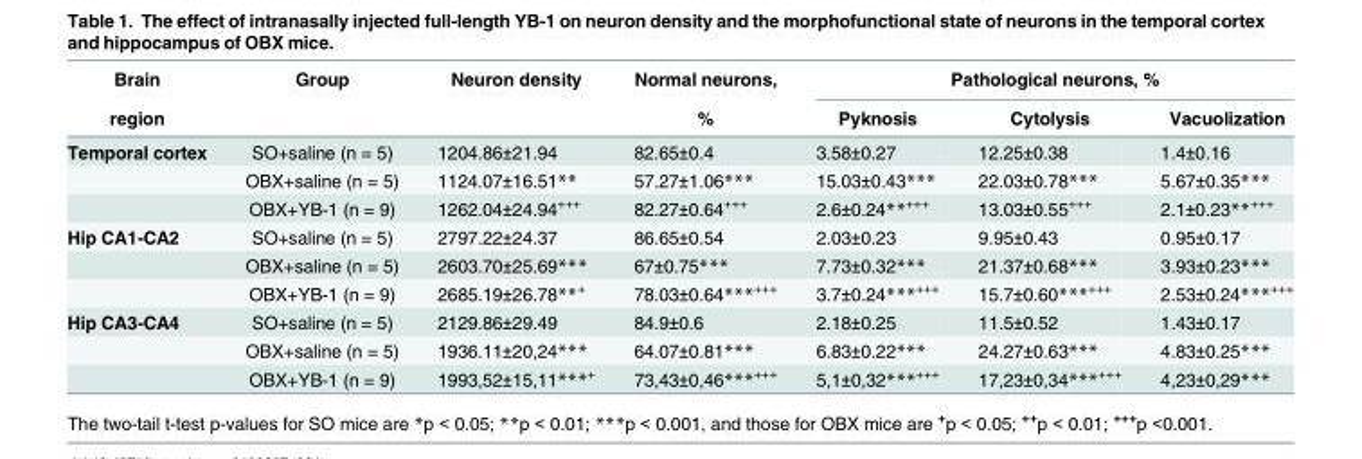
<table><thead><tr><td rowspan="2">Brain region</td><td rowspan="2">Group</td><td rowspan="2">Neuron density</td><td rowspan="2">Normal neurons, %</td><td colspan="3">Pathological neurons, %</td></tr><tr><td>Pyknosis</td><td>Cytolysis</td><td>Vacuolization</td></tr></thead><tbody><tr><td rowspan="3">Temporal cortex</td><td>SO+saline (n = 5)</td><td>1204.86±21.94</td><td>82.65±0.4</td><td>3.58±0.27</td><td>12.25±0.38</td><td>1.4±0.16</td></tr><tr><td>OBX+saline (n = 5)</td><td>1124.07±16.51**</td><td>57.27±1.06***</td><td>15.03±0.43***</td><td>22.03±0.78***</td><td>5.67±0.35***</td></tr><tr><td>OBX+YB-1 (n = 9)</td><td>1262.04±24.94<sup>+++</sup></td><td>82.27±0.64<sup>+++</sup></td><td>2.6±0.24**<sup>+++</sup></td><td>13.03±0.55<sup>+++</sup></td><td>2.1±0.23**<sup>+++</sup></td></tr><tr><td rowspan="3">Hip CA1-CA2</td><td>SO+saline (n = 5)</td><td>2797.22±24.37</td><td>86.65±0.54</td><td>2.03±0.23</td><td>9.95±0.43</td><td>0.95±0.17</td></tr><tr><td>OBX+saline (n = 5)</td><td>2603.70±25.69***</td><td>67±0.75***</td><td>7.73±0.32***</td><td>21.37±0.68***</td><td>3.93±0.23***</td></tr><tr><td>OBX+YB-1 (n = 9)</td><td>2685.19±26.78**<sup>+</sup></td><td>78.03±0.64***<sup>+++</sup></td><td>3.7±0.24***<sup>+++</sup></td><td>15.7±0.60***<sup>+++</sup></td><td>2.53±0.24***<sup>+++</sup></td></tr><tr><td rowspan="3">Hip CA3-CA4</td><td>SO+saline (n = 5)</td><td>2129.86±29.49</td><td>84.9±0.6</td><td>2.18±0.25</td><td>11.5±0.52</td><td>1.43±0.17</td></tr><tr><td>OBX+saline (n = 5)</td><td>1936.11±20,24***</td><td>64.07±0.81***</td><td>6.83±0.22***</td><td>24.27±0.63***</td><td>4.83±0.25***</td></tr><tr><td>OBX+YB-1 (n = 9)</td><td>1993,52±15,11***<sup>+</sup></td><td>73,43±0,46***<sup>+++</sup></td><td>5,1±0,32***<sup>+++</sup></td><td>17,23±0,34***<sup>+++</sup></td><td>4,23±0,29***</td></tr></tbody></table>